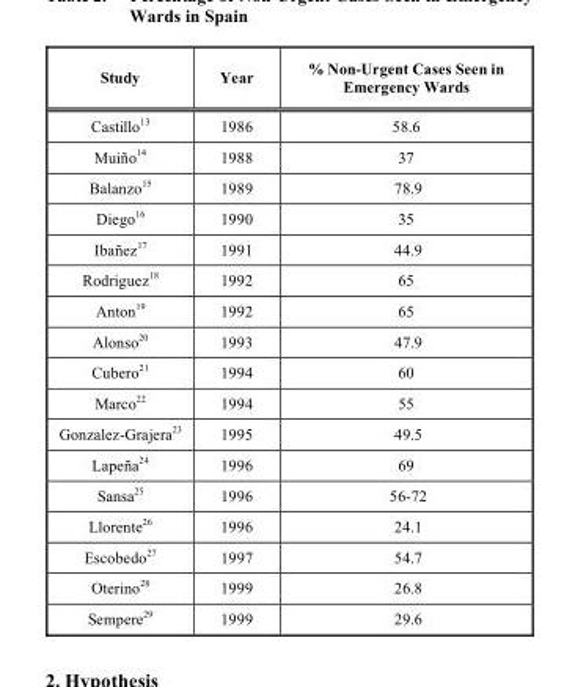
<table><thead><tr><td>Study</td><td>Year</td><td>% Non-Urgent Cases Seen in Emergency Wards</td></tr></thead><tbody><tr><td>Castillo<sup>13</sup></td><td>1986</td><td>58.6</td></tr><tr><td>Muiño<sup>14</sup></td><td>1988</td><td>37</td></tr><tr><td>Balanzo<sup>15</sup></td><td>1989</td><td>78.9</td></tr><tr><td>Diego<sup>16</sup></td><td>1990</td><td>35</td></tr><tr><td>Ibañez<sup>17</sup></td><td>1991</td><td>44.9</td></tr><tr><td>Rodriguez<sup>18</sup></td><td>1992</td><td>65</td></tr><tr><td>Anton<sup>19</sup></td><td>1992</td><td>65</td></tr><tr><td>Alonso<sup>20</sup></td><td>1993</td><td>47.9</td></tr><tr><td>Cubero<sup>21</sup></td><td>1994</td><td>60</td></tr><tr><td>Marco<sup>22</sup></td><td>1994</td><td>55</td></tr><tr><td>Gonzalez-Grajera<sup>23</sup></td><td>1995</td><td>49.5</td></tr><tr><td>Lapeña<sup>24</sup></td><td>1996</td><td>69</td></tr><tr><td>Sansa<sup>25</sup></td><td>1996</td><td>56-72</td></tr><tr><td>Llorente<sup>26</sup></td><td>1996</td><td>24.1</td></tr><tr><td>Escobedo<sup>27</sup></td><td>1997</td><td>54.7</td></tr><tr><td>Oterino<sup>28</sup></td><td>1999</td><td>26.8</td></tr><tr><td>Sempere<sup>29</sup></td><td>1999</td><td>29.6</td></tr></tbody></table>